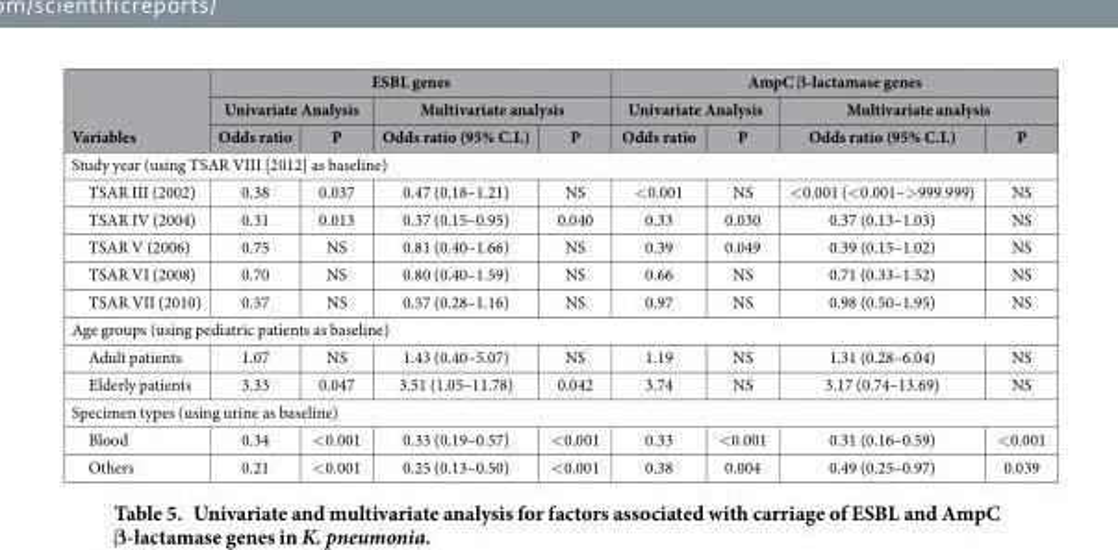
<table><thead><tr><td rowspan="3">Variables</td><td colspan="4">ESBL genes</td><td colspan="4">AmpC β-lactamase genes</td></tr><tr><td colspan="2">Univariate Analysis</td><td colspan="2">Multivariate analysis</td><td colspan="2">Univariate Analysis</td><td colspan="2">Multivariate analysis</td></tr><tr><td>Odds ratio</td><td>P</td><td>Odds ratio (95% C.I.)</td><td>P</td><td>Odds ratio</td><td>P</td><td>Odds ratio (95% C.I.)</td><td>P</td></tr></thead><tbody><tr><td colspan="9">Study year (using TSAR VIII [2012] as baseline)</td></tr><tr><td>TSAR III (2002)</td><td>0.38</td><td>0.037</td><td>0.47 (0.18–1.21)</td><td>NS</td><td>&lt; 0.001</td><td>NS</td><td>&lt; 0.001 (&lt; 0.001–&gt; 999.999)</td><td>NS</td></tr><tr><td>TSAR IV (2004)</td><td>0.31</td><td>0.013</td><td>0.37 (0.15–0.95)</td><td>0.040</td><td>0.33</td><td>0.030</td><td>0.37 (0.13–1.03)</td><td>NS</td></tr><tr><td>TSAR V (2006)</td><td>0.75</td><td>NS</td><td>0.81 (0.40–1.66)</td><td>NS</td><td>0.39</td><td>0.049</td><td>0.39 (0.15–1.02)</td><td>NS</td></tr><tr><td>TSAR VI (2008)</td><td>0.70</td><td>NS</td><td>0.80 (0.40–1.59)</td><td>NS</td><td>0.66</td><td>NS</td><td>0.71 (0.33–1.52)</td><td>NS</td></tr><tr><td>TSAR VII (2010)</td><td>0.57</td><td>NS</td><td>0.57 (0.28–1.16)</td><td>NS</td><td>0.97</td><td>NS</td><td>0.98 (0.50–1.95)</td><td>NS</td></tr><tr><td colspan="9">Age groups (using pediatric patients as baseline)</td></tr><tr><td>Adult patients</td><td>1.07</td><td>NS</td><td>1.43 (0.40–5.07)</td><td>NS</td><td>1.19</td><td>NS</td><td>1.31 (0.28–6.04)</td><td>NS</td></tr><tr><td>Elderly patients</td><td>3.33</td><td>0.047</td><td>3.51 (1.05–11.78)</td><td>0.042</td><td>3.74</td><td>NS</td><td>3.17 (0.74–13.69)</td><td>NS</td></tr><tr><td colspan="9">Specimen types (using urine as baseline)</td></tr><tr><td>Blood</td><td>0.34</td><td>&lt; 0.001</td><td>0.33 (0.19–0.57)</td><td>&lt; 0.001</td><td>0.33</td><td>&lt; 0.001</td><td>0.31 (0.16–0.59)</td><td>&lt; 0.001</td></tr><tr><td>Others</td><td>0.21</td><td>&lt; 0.001</td><td>0.25 (0.13–0.50)</td><td>&lt; 0.001</td><td>0.38</td><td>0.004</td><td>0.49 (0.25–0.97)</td><td>0.039</td></tr></tbody></table>